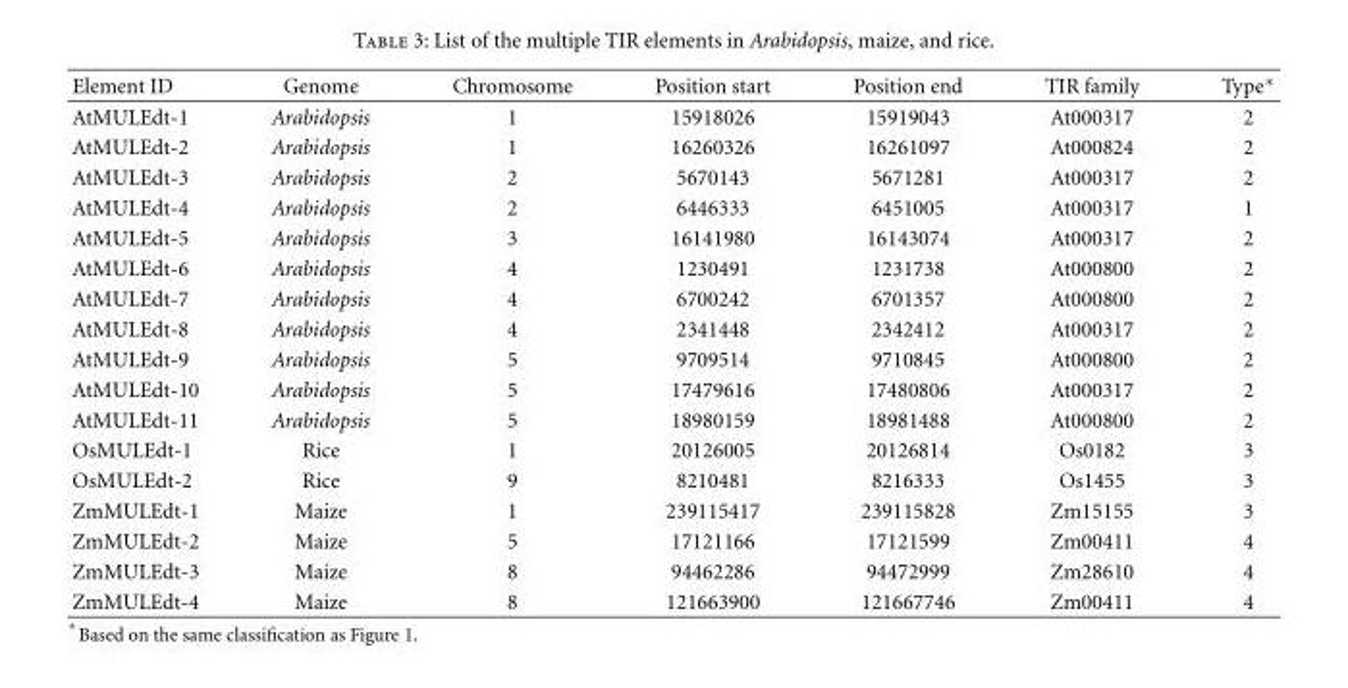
<table><thead><tr><td>Element ID</td><td>Genome</td><td>Chromosome</td><td>Position start</td><td>Position end</td><td>TIR family</td><td>Type∗</td></tr></thead><tbody><tr><td>AtMULEdt-1</td><td>Arabidopsis</td><td>1</td><td>15918026</td><td>15919043</td><td>At000317</td><td>2</td></tr><tr><td>AtMULEdt-2</td><td>Arabidopsis</td><td>1</td><td>16260326</td><td>16261097</td><td>At000824</td><td>2</td></tr><tr><td>AtMULEdt-3</td><td>Arabidopsis</td><td>2</td><td>5670143</td><td>5671281</td><td>At000317</td><td>2</td></tr><tr><td>AtMULEdt-4</td><td>Arabidopsis</td><td>2</td><td>6446333</td><td>6451005</td><td>At000317</td><td>1</td></tr><tr><td>AtMULEdt-5</td><td>Arabidopsis</td><td>3</td><td>16141980</td><td>16143074</td><td>At000317</td><td>2</td></tr><tr><td>AtMULEdt-6</td><td>Arabidopsis</td><td>4</td><td>1230491</td><td>1231738</td><td>At000800</td><td>2</td></tr><tr><td>AtMULEdt-7</td><td>Arabidopsis</td><td>4</td><td>6700242</td><td>6701357</td><td>At000800</td><td>2</td></tr><tr><td>AtMULEdt-8</td><td>Arabidopsis</td><td>4</td><td>2341448</td><td>2342412</td><td>At000317</td><td>2</td></tr><tr><td>AtMULEdt-9</td><td>Arabidopsis</td><td>5</td><td>9709514</td><td>9710845</td><td>At000800</td><td>2</td></tr><tr><td>AtMULEdt-10</td><td>Arabidopsis</td><td>5</td><td>17479616</td><td>17480806</td><td>At000317</td><td>2</td></tr><tr><td>AtMULEdt-11</td><td>Arabidopsis</td><td>5</td><td>18980159</td><td>18981488</td><td>At000800</td><td>2</td></tr><tr><td>OsMULEdt-1</td><td>Rice</td><td>1</td><td>20126005</td><td>20126814</td><td>Os0182</td><td>3</td></tr><tr><td>OsMULEdt-2</td><td>Rice</td><td>9</td><td>8210481</td><td>8216333</td><td>Os1455</td><td>3</td></tr><tr><td>ZmMULEdt-1</td><td>Maize</td><td>1</td><td>239115417</td><td>239115828</td><td>Zm15155</td><td>3</td></tr><tr><td>ZmMULEdt-2</td><td>Maize</td><td>5</td><td>17121166</td><td>17121599</td><td>Zm00411</td><td>4</td></tr><tr><td>ZmMULEdt-3</td><td>Maize</td><td>8</td><td>94462286</td><td>94472999</td><td>Zm28610</td><td>4</td></tr><tr><td>ZmMULEdt-4</td><td>Maize</td><td>8</td><td>121663900</td><td>121667746</td><td>Zm00411</td><td>4</td></tr></tbody></table>